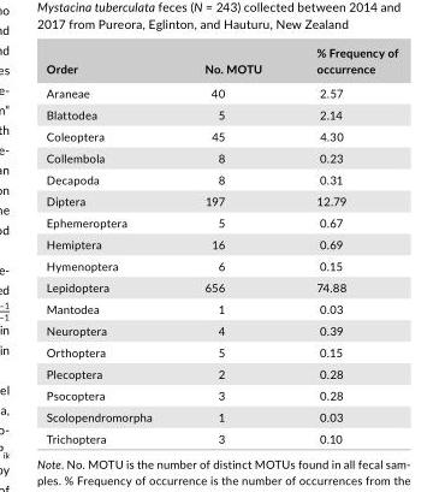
<table><thead><tr><td>Order</td><td>No. MOTU</td><td>% Frequency of occurrence</td></tr></thead><tbody><tr><td>Araneae</td><td>40</td><td>2.57</td></tr><tr><td>Blattodea</td><td>5</td><td>2.14</td></tr><tr><td>Coleoptera</td><td>45</td><td>4.30</td></tr><tr><td>Collembola</td><td>8</td><td>0.23</td></tr><tr><td>Decapoda</td><td>8</td><td>0.31</td></tr><tr><td>Diptera</td><td>197</td><td>12.79</td></tr><tr><td>Ephemeroptera</td><td>5</td><td>0.67</td></tr><tr><td>Hemiptera</td><td>16</td><td>0.69</td></tr><tr><td>Hymenoptera</td><td>6</td><td>0.15</td></tr><tr><td>Lepidoptera</td><td>656</td><td>74.88</td></tr><tr><td>Mantodea</td><td>1</td><td>0.03</td></tr><tr><td>Neuroptera</td><td>4</td><td>0.39</td></tr><tr><td>Orthoptera</td><td>5</td><td>0.15</td></tr><tr><td>Plecoptera</td><td>2</td><td>0.28</td></tr><tr><td>Psocoptera</td><td>3</td><td>0.28</td></tr><tr><td>Scolopendromorpha</td><td>1</td><td>0.03</td></tr><tr><td>Trichoptera</td><td>3</td><td>0.10</td></tr></tbody></table>